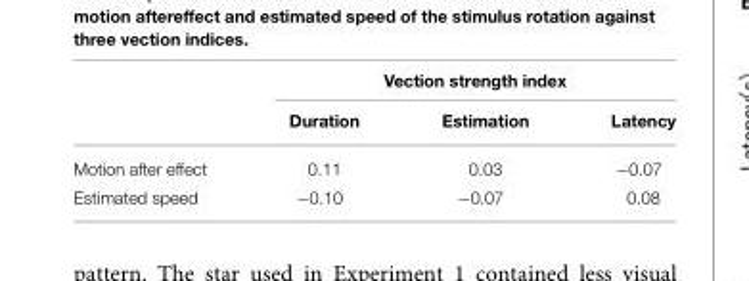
<table><thead><tr><td rowspan="2"></td><td colspan="3">Vection strength index</td></tr><tr><td>Duration</td><td>Estimation</td><td>Latency</td></tr></thead><tbody><tr><td>Motion after effect</td><td>0.11</td><td>0.03</td><td>−0.07</td></tr><tr><td>Estimated speed</td><td>−0.10</td><td>−0.07</td><td>0.08</td></tr></tbody></table>